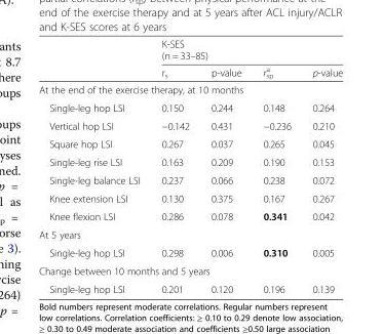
<table><thead><tr><td rowspan="2"></td><td colspan="4">K-SES (n = 33–85)</td></tr><tr><td>r<sub>s</sub></td><td>p-value</td><td>r<sub>sp</sub> <sup>a</sup></td><td>p-value</td></tr></thead><tbody><tr><td colspan="5">At the end of the exercise therapy, at 10 months</td></tr><tr><td>Single-leg hop LSI</td><td>0.150</td><td>0.244</td><td>0.148</td><td>0.264</td></tr><tr><td>Vertical hop LSI</td><td>−0.142</td><td>0.431</td><td>−0.236</td><td>0.210</td></tr><tr><td>Square hop LSI</td><td>0.267</td><td>0.037</td><td>0.265</td><td>0.045</td></tr><tr><td>Single-leg rise LSI</td><td>0.163</td><td>0.209</td><td>0.190</td><td>0.153</td></tr><tr><td>Single-leg balance LSI</td><td>0.237</td><td>0.066</td><td>0.238</td><td>0.072</td></tr><tr><td>Knee extension LSI</td><td>0.130</td><td>0.375</td><td>0.167</td><td>0.267</td></tr><tr><td>Knee flexion LSI</td><td>0.286</td><td>0.078</td><td>0.341</td><td>0.042</td></tr><tr><td colspan="5">At 5 years</td></tr><tr><td>Single-leg hop LSI</td><td>0.298</td><td>0.006</td><td>0.310</td><td>0.005</td></tr><tr><td colspan="5">Change between 10 months and 5 years</td></tr><tr><td>Single-leg hop LSI</td><td>0.201</td><td>0.120</td><td>0.196</td><td>0.139</td></tr></tbody></table>